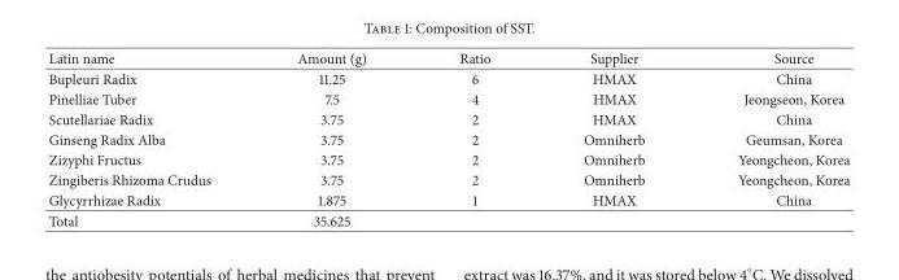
<table><thead><tr><td>Latin name</td><td>Amount (g)</td><td>Ratio</td><td>Supplier</td><td>Source</td></tr></thead><tbody><tr><td>Bupleuri Radix</td><td>11.25</td><td>6</td><td>HMAX</td><td>China</td></tr><tr><td>Pinelliae Tuber</td><td>7.5</td><td>4</td><td>HMAX</td><td>Jeongseon, Korea</td></tr><tr><td>Scutellariae Radix</td><td>3.75</td><td>2</td><td>HMAX</td><td>China</td></tr><tr><td>Ginseng Radix Alba</td><td>3.75</td><td>2</td><td>Omniherb</td><td>Geumsan, Korea</td></tr><tr><td>Zizyphi Fructus</td><td>3.75</td><td>2</td><td>Omniherb</td><td>Yeongcheon, Korea</td></tr><tr><td>Zingiberis Rhizoma Crudus</td><td>3.75</td><td>2</td><td>Omniherb</td><td>Yeongcheon, Korea</td></tr><tr><td>Glycyrrhizae Radix</td><td>1.875</td><td>1</td><td>HMAX</td><td>China</td></tr><tr><td>Total</td><td>35.625</td><td></td><td></td><td></td></tr></tbody></table>